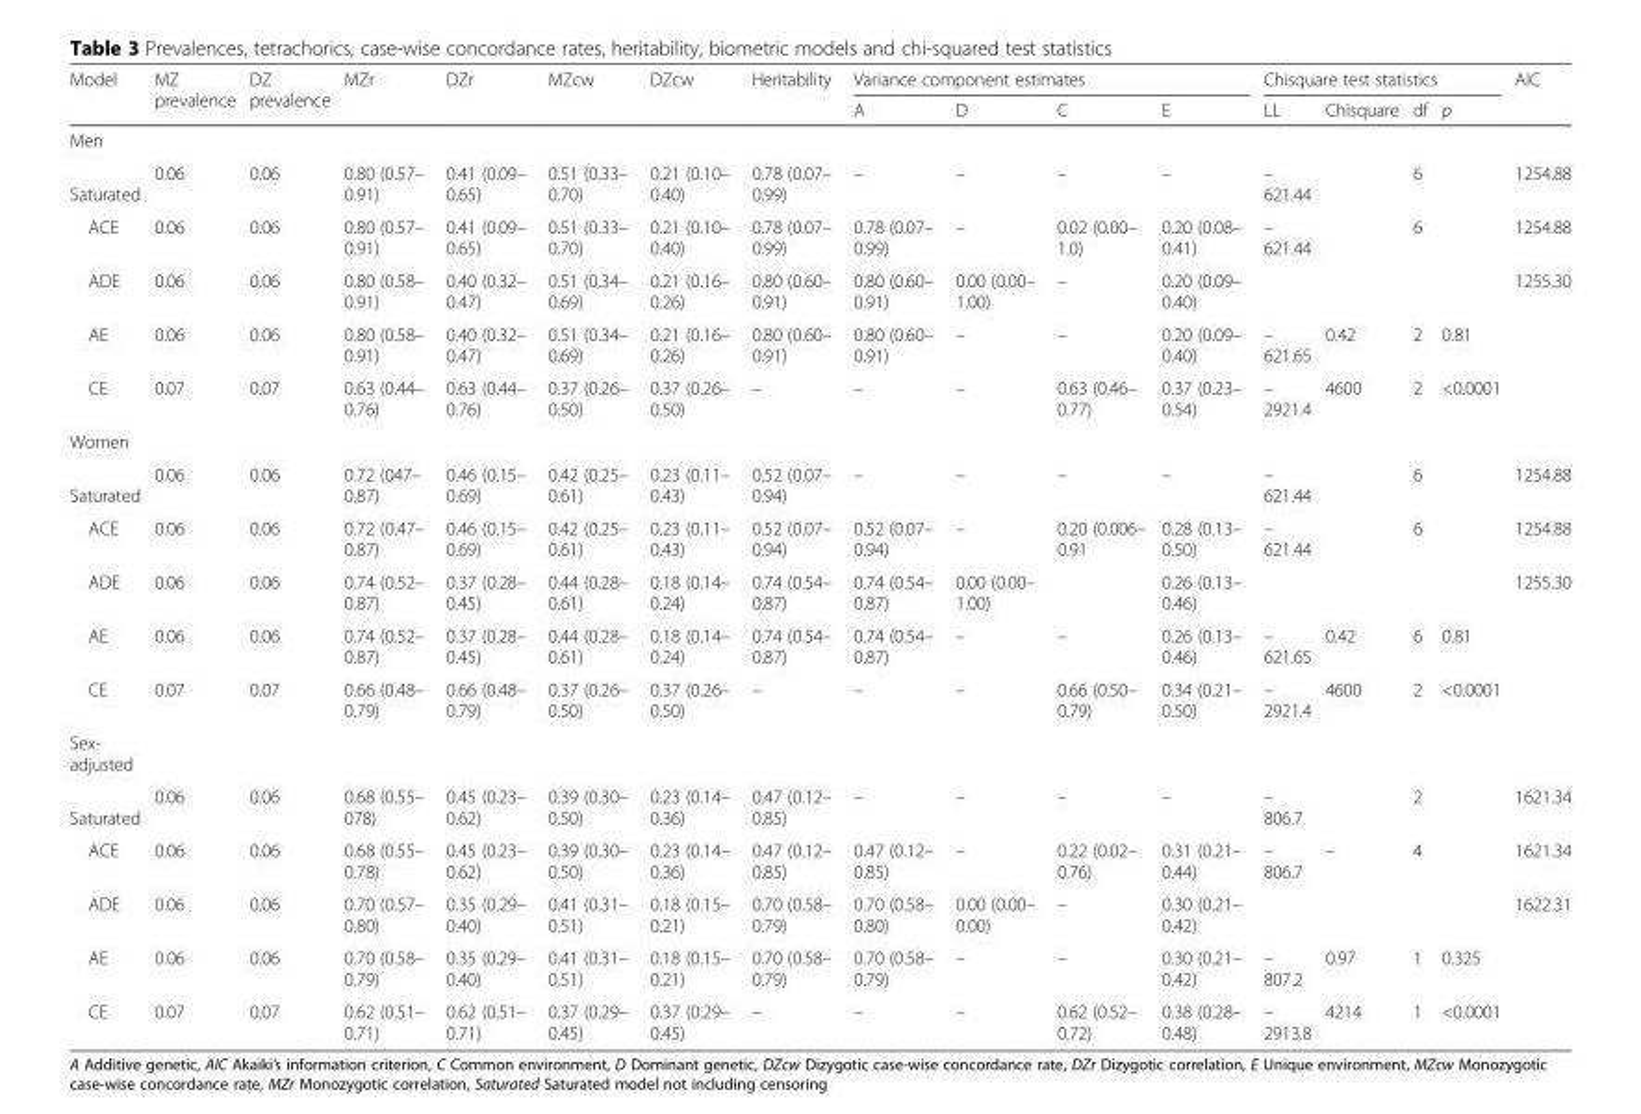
<table><thead><tr><td rowspan="2">Model</td><td rowspan="2">MZ prevalence</td><td rowspan="2">DZ prevalence</td><td rowspan="2">MZr</td><td rowspan="2">DZr</td><td rowspan="2">MZcw</td><td rowspan="2">DZcw</td><td rowspan="2">Heritability</td><td colspan="4">Variance component estimates</td><td colspan="4">Chisquare test statistics</td><td rowspan="2">AIC</td></tr><tr><td>A</td><td>D</td><td>C</td><td>E</td><td>LL</td><td>Chisquare</td><td>df</td><td>p</td></tr></thead><tbody><tr><td colspan="17">Men</td></tr><tr><td>Saturated</td><td>0.06</td><td>0.06</td><td>0.80 (0.57– 0.91)</td><td>0.41 (0.09– 0.65)</td><td>0.51 (0.33– 0.70)</td><td>0.21 (0.10– 0.40)</td><td>0.78 (0.07– 0.99)</td><td>–</td><td>–</td><td>–</td><td>–</td><td>– 621.44</td><td></td><td>6</td><td></td><td>1254.88</td></tr><tr><td>ACE</td><td>0.06</td><td>0.06</td><td>0.80 (0.57– 0.91)</td><td>0.41 (0.09– 0.65)</td><td>0.51 (0.33– 0.70)</td><td>0.21 (0.10– 0.40)</td><td>0.78 (0.07– 0.99)</td><td>0.78 (0.07– 0.99)</td><td>–</td><td>0.02 (0.00– 1.0)</td><td>0.20 (0.08– 0.41)</td><td>– 621.44</td><td></td><td>6</td><td></td><td>1254.88</td></tr><tr><td>ADE</td><td>0.06</td><td>0.06</td><td>0.80 (0.58– 0.91)</td><td>0.40 (0.32– 0.47)</td><td>0.51 (0.34– 0.69)</td><td>0.21 (0.16– 0.26)</td><td>0.80 (0.60– 0.91)</td><td>0.80 (0.60– 0.91)</td><td>0.00 (0.00– 1.00)</td><td>–</td><td>0.20 (0.09– 0.40)</td><td></td><td></td><td></td><td></td><td>1255.30</td></tr><tr><td>AE</td><td>0.06</td><td>0.06</td><td>0.80 (0.58– 0.91)</td><td>0.40 (0.32– 0.47)</td><td>0.51 (0.34– 0.69)</td><td>0.21 (0.16– 0.26)</td><td>0.80 (0.60– 0.91)</td><td>0.80 (0.60– 0.91)</td><td>–</td><td>–</td><td>0.20 (0.09– 0.40)</td><td>– 621.65</td><td>0.42</td><td>2</td><td>0.81</td><td></td></tr><tr><td>CE</td><td>0.07</td><td>0.07</td><td>0.63 (0.44– 0.76)</td><td>0.63 (0.44– 0.76)</td><td>0.37 (0.26– 0.50)</td><td>0.37 (0.26– 0.50)</td><td>–</td><td>–</td><td>–</td><td>0.63 (0.46– 0.77)</td><td>0.37 (0.23– 0.54)</td><td>– 2921.4</td><td>4600</td><td>2</td><td>&lt;0.0001</td><td></td></tr><tr><td colspan="17">Women</td></tr><tr><td>Saturated</td><td>0.06</td><td>0.06</td><td>0.72 (047– 0.87)</td><td>0.46 (0.15– 0.69)</td><td>0.42 (0.25– 0.61)</td><td>0.23 (0.11– 0.43)</td><td>0.52 (0.07– 0.94)</td><td>–</td><td>–</td><td>–</td><td>–</td><td>– 621.44</td><td></td><td>6</td><td></td><td>1254.88</td></tr><tr><td>ACE</td><td>0.06</td><td>0.06</td><td>0.72 (0.47– 0.87)</td><td>0.46 (0.15– 0.69)</td><td>0.42 (0.25– 0.61)</td><td>0.23 (0.11– 0.43)</td><td>0.52 (0.07– 0.94)</td><td>0.52 (0.07– 0.94)</td><td>–</td><td>0.20 (0.006– 0.91</td><td>0.28 (0.13– 0.50)</td><td>– 621.44</td><td></td><td>6</td><td></td><td>1254.88</td></tr><tr><td>ADE</td><td>0.06</td><td>0.06</td><td>0.74 (0.52– 0.87)</td><td>0.37 (0.28– 0.45)</td><td>0.44 (0.28– 0.61)</td><td>0.18 (0.14– 0.24)</td><td>0.74 (0.54– 0.87)</td><td>0.74 (0.54– 0.87)</td><td>0.00 (0.00– 1.00)</td><td></td><td>0.26 (0.13– 0.46)</td><td></td><td></td><td></td><td></td><td>1255.30</td></tr><tr><td>AE</td><td>0.06</td><td>0.06</td><td>0.74 (0.52– 0.87)</td><td>0.37 (0.28– 0.45)</td><td>0.44 (0.28– 0.61)</td><td>0.18 (0.14– 0.24)</td><td>0.74 (0.54– 0.87)</td><td>0.74 (0.54– 0.87)</td><td>–</td><td>–</td><td>0.26 (0.13– 0.46)</td><td>– 621.65</td><td>0.42</td><td>6</td><td>0.81</td><td></td></tr><tr><td>CE</td><td>0.07</td><td>0.07</td><td>0.66 (0.48– 0.79)</td><td>0.66 (0.48– 0.79)</td><td>0.37 (0.26– 0.50)</td><td>0.37 (0.26– 0.50)</td><td>–</td><td>–</td><td>–</td><td>0.66 (0.50– 0.79)</td><td>0.34 (0.21– 0.50)</td><td>– 2921.4</td><td>4600</td><td>2</td><td>&lt;0.0001</td><td></td></tr><tr><td colspan="17">Sex- adjusted</td></tr><tr><td>Saturated</td><td>0.06</td><td>0.06</td><td>0.68 (0.55– 078)</td><td>0.45 (0.23– 0.62)</td><td>0.39 (0.30– 0.50)</td><td>0.23 (0.14– 0.36)</td><td>0.47 (0.12– 0.85)</td><td>–</td><td>–</td><td>–</td><td>–</td><td>– 806.7</td><td></td><td>2</td><td></td><td>1621.34</td></tr><tr><td>ACE</td><td>0.06</td><td>0.06</td><td>0.68 (0.55– 0.78)</td><td>0.45 (0.23– 0.62)</td><td>0.39 (0.30– 0.50)</td><td>0.23 (0.14– 0.36)</td><td>0.47 (0.12– 0.85)</td><td>0.47 (0.12– 0.85)</td><td>–</td><td>0.22 (0.02– 0.76)</td><td>0.31 (0.21– 0.44)</td><td>– 806.7</td><td>–</td><td>4</td><td></td><td>1621.34</td></tr><tr><td>ADE</td><td>0.06</td><td>0.06</td><td>0.70 (0.57– 0.80)</td><td>0.35 (0.29– 0.40)</td><td>0.41 (0.31– 0.51)</td><td>0.18 (0.15– 0.21)</td><td>0.70 (0.58– 0.79)</td><td>0.70 (0.58– 0.80)</td><td>0.00 (0.00– 0.00)</td><td>–</td><td>0.30 (0.21– 0.42)</td><td></td><td></td><td></td><td></td><td>1622.31</td></tr><tr><td>AE</td><td>0.06</td><td>0.06</td><td>0.70 (0.58– 0.79)</td><td>0.35 (0.29– 0.40)</td><td>0.41 (0.31– 0.51)</td><td>0.18 (0.15– 0.21)</td><td>0.70 (0.58– 0.79)</td><td>0.70 (0.58– 0.79)</td><td>–</td><td>–</td><td>0.30 (0.21– 0.42)</td><td>– 807.2</td><td>0.97</td><td>1</td><td>0.325</td><td></td></tr><tr><td>CE</td><td>0.07</td><td>0.07</td><td>0.62 (0.51– 0.71)</td><td>0.62 (0.51– 0.71)</td><td>0.37 (0.29– 0.45)</td><td>0.37 (0.29– 0.45)</td><td>–</td><td>–</td><td>–</td><td>0.62 (0.52– 0.72)</td><td>0.38 (0.28– 0.48)</td><td>– 2913.8</td><td>4214</td><td>1</td><td>&lt;0.0001</td><td></td></tr></tbody></table>